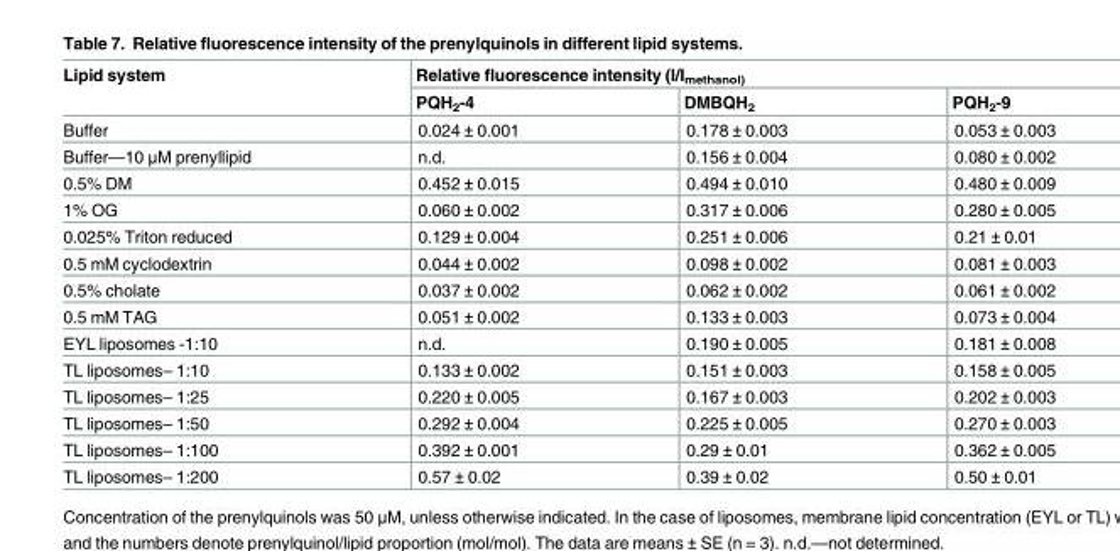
<table><thead><tr><td rowspan="2">Lipid system</td><td colspan="3">Relative fluorescence intensity (I/I<sub>methanol)</sub></td></tr><tr><td>PQH<sub>2</sub>-4</td><td>DMBQH<sub>2</sub></td><td>PQH<sub>2</sub>-9</td></tr></thead><tbody><tr><td>Buffer</td><td>0.024 ± 0.001</td><td>0.178 ± 0.003</td><td>0.053 ± 0.003</td></tr><tr><td>Buffer—10 μM prenyllipid</td><td>n.d.</td><td>0.156 ± 0.004</td><td>0.080 ± 0.002</td></tr><tr><td>0.5% DM</td><td>0.452 ± 0.015</td><td>0.494 ± 0.010</td><td>0.480 ± 0.009</td></tr><tr><td>1% OG</td><td>0.060 ± 0.002</td><td>0.317 ± 0.006</td><td>0.280 ± 0.005</td></tr><tr><td>0.025% Triton reduced</td><td>0.129 ± 0.004</td><td>0.251 ± 0.006</td><td>0.21 ± 0.01</td></tr><tr><td>0.5 mM cyclodextrin</td><td>0.044 ± 0.002</td><td>0.098 ± 0.002</td><td>0.081 ± 0.003</td></tr><tr><td>0.5% cholate</td><td>0.037 ± 0.002</td><td>0.062 ± 0.002</td><td>0.061 ± 0.002</td></tr><tr><td>0.5 mM TAG</td><td>0.051 ± 0.002</td><td>0.133 ± 0.003</td><td>0.073 ± 0.004</td></tr><tr><td>EYL liposomes -1:10</td><td>n.d.</td><td>0.190 ± 0.005</td><td>0.181 ± 0.008</td></tr><tr><td>TL liposomes– 1:10</td><td>0.133 ± 0.002</td><td>0.151 ± 0.003</td><td>0.158 ± 0.005</td></tr><tr><td>TL liposomes– 1:25</td><td>0.220 ± 0.005</td><td>0.167 ± 0.003</td><td>0.202 ± 0.003</td></tr><tr><td>TL liposomes– 1:50</td><td>0.292 ± 0.004</td><td>0.225 ± 0.005</td><td>0.270 ± 0.003</td></tr><tr><td>TL liposomes– 1:100</td><td>0.392 ± 0.001</td><td>0.29 ± 0.01</td><td>0.362 ± 0.005</td></tr><tr><td>TL liposomes– 1:200</td><td>0.57 ± 0.02</td><td>0.39 ± 0.02</td><td>0.50 ± 0.01</td></tr></tbody></table>